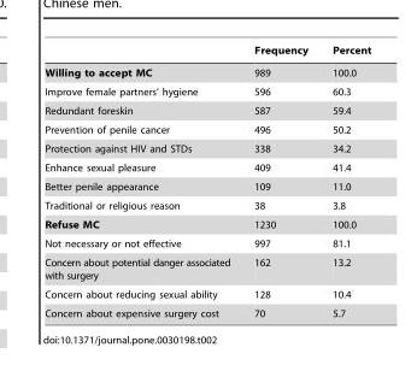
<table><thead><tr><td></td><td>Frequency</td><td>Percent</td></tr></thead><tbody><tr><td>Willing to accept MC</td><td>989</td><td>100.0</td></tr><tr><td>Improve female partners’ hygiene</td><td>596</td><td>60.3</td></tr><tr><td>Redundant foreskin</td><td>587</td><td>59.4</td></tr><tr><td>Prevention of penile cancer</td><td>496</td><td>50.2</td></tr><tr><td>Protection against HIV and STDs</td><td>338</td><td>34.2</td></tr><tr><td>Enhance sexual pleasure</td><td>409</td><td>41.4</td></tr><tr><td>Better penile appearance</td><td>109</td><td>11.0</td></tr><tr><td>Traditional or religious reason</td><td>38</td><td>3.8</td></tr><tr><td>Refuse MC</td><td>1230</td><td>100.0</td></tr><tr><td>Not necessary or not effective</td><td>997</td><td>81.1</td></tr><tr><td>Concern about potential danger associated with surgery</td><td>162</td><td>13.2</td></tr><tr><td>Concern about reducing sexual ability</td><td>128</td><td>10.4</td></tr><tr><td>Concern about expensive surgery cost</td><td>70</td><td>5.7</td></tr></tbody></table>